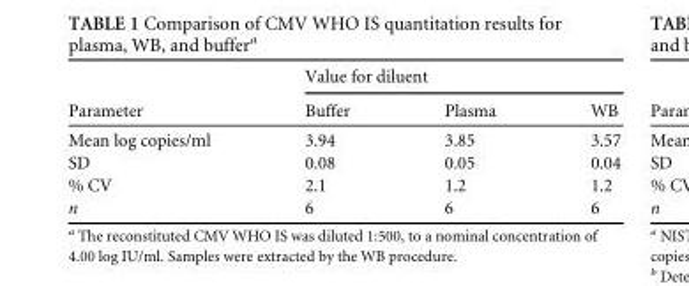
<table><thead><tr><td rowspan="2">Parameter</td><td colspan="3">Value for diluent</td></tr><tr><td>Buffer</td><td>Plasma</td><td>WB</td></tr></thead><tbody><tr><td>Mean log copies/ml</td><td>3.94</td><td>3.85</td><td>3.57</td></tr><tr><td>SD</td><td>0.08</td><td>0.05</td><td>0.04</td></tr><tr><td>% CV</td><td>2.1</td><td>1.2</td><td>1.2</td></tr><tr><td>n</td><td>6</td><td>6</td><td>6</td></tr></tbody></table>